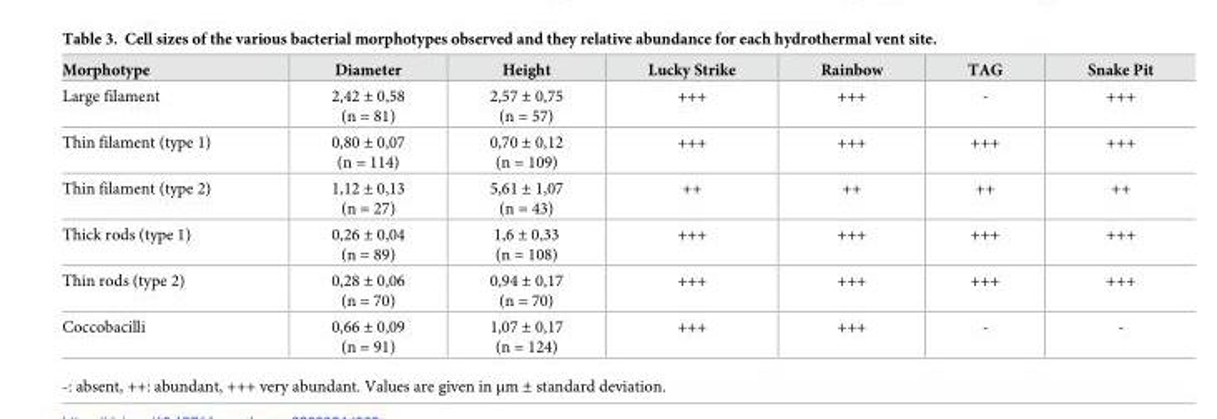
<table><thead><tr><td>Morphotype</td><td>Diameter</td><td>Height</td><td>Lucky Strike</td><td>Rainbow</td><td>TAG</td><td>Snake Pit</td></tr></thead><tbody><tr><td>Large filament</td><td>2,42 ± 0,58 (n = 81)</td><td>2,57 ± 0,75 (n = 57)</td><td>+++</td><td>+++</td><td>-</td><td>+++</td></tr><tr><td>Thin filament (type 1)</td><td>0,80 ± 0,07 (n = 114)</td><td>0,70 ± 0,12 (n = 109)</td><td>+++</td><td>+++</td><td>+++</td><td>+++</td></tr><tr><td>Thin filament (type 2)</td><td>1,12 ± 0,13 (n = 27)</td><td>5,61 ± 1,07 (n = 43)</td><td>++</td><td>++</td><td>++</td><td>++</td></tr><tr><td>Thick rods (type 1)</td><td>0,26 ± 0,04 (n = 89)</td><td>1,6 ± 0,33 (n = 108)</td><td>+++</td><td>+++</td><td>+++</td><td>+++</td></tr><tr><td>Thin rods (type 2)</td><td>0,28 ± 0,06 (n = 70)</td><td>0,94 ± 0,17 (n = 70)</td><td>+++</td><td>+++</td><td>+++</td><td>+++</td></tr><tr><td>Coccobacilli</td><td>0,66 ± 0,09 (n = 91)</td><td>1,07 ± 0,17 (n = 124)</td><td>+++</td><td>+++</td><td>-</td><td>-</td></tr></tbody></table>